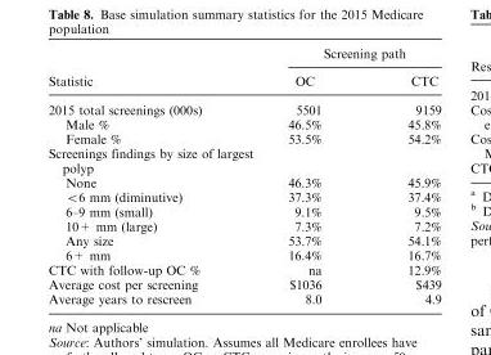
<table><thead><tr><td rowspan="2">Statistic</td><td colspan="2">Screening path</td></tr><tr><td>OC</td><td>CTC</td></tr></thead><tbody><tr><td>2015 total screenings (000s)</td><td>5501</td><td>9159</td></tr><tr><td>Male %</td><td>46.5%</td><td>45.8%</td></tr><tr><td>Female %</td><td>53.5%</td><td>54.2%</td></tr><tr><td colspan="3">Screenings findings by size of largest polyp</td></tr><tr><td>None</td><td>46.3%</td><td>45.9%</td></tr><tr><td>&lt;6 mm (diminutive)</td><td>37.3%</td><td>37.4%</td></tr><tr><td>6–9 mm (small)</td><td>9.1%</td><td>9.5%</td></tr><tr><td>10+ mm (large)</td><td>7.3%</td><td>7.2%</td></tr><tr><td>Any size</td><td>53.7%</td><td>54.1%</td></tr><tr><td>6+ mm</td><td>16.4%</td><td>16.7%</td></tr><tr><td>CTC with follow-up OC %</td><td>na</td><td>12.9%</td></tr><tr><td>Average cost per screening</td><td>$1036</td><td>$439</td></tr><tr><td>Average years to rescreen</td><td>8.0</td><td>4.9</td></tr></tbody></table>